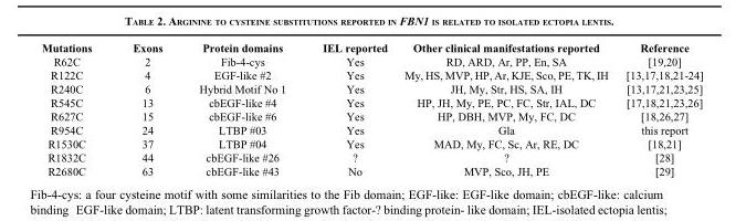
<table><tbody><tr><td>Mutations</td><td>Exons</td><td>Protein domains</td><td>IEL reported</td><td>Other clinical manifestations reported</td><td>Reference</td></tr><tr><td>R62C</td><td>2</td><td>Fib-4-cys</td><td>Yes</td><td>RD, ARD, Ar, PP, En, SA</td><td>[19,20]</td></tr><tr><td>R122C</td><td>4</td><td>EGF-like #2</td><td>Yes</td><td>My, HS, MVP, HP, Ar, KJE, Sco, PE, TK, IH</td><td>[13,17,18,21-24]</td></tr><tr><td>R240C</td><td>6</td><td>Hybrid Motif No 1</td><td>Yes</td><td>JH, My, Str, HS, SA, IH</td><td>[13,17,21,23,25]</td></tr><tr><td>R545C</td><td>13</td><td>cbEGF-like #4</td><td>Yes</td><td>HP, JH, My, PE, PC, FC, Str, IAL, DC</td><td>[17,18,21,23,26]</td></tr><tr><td>R627C</td><td>15</td><td>cbEGF-like #6</td><td>Yes</td><td>HP, DBH, MVP, My, FC, DC</td><td>[18,26,27]</td></tr><tr><td>R954C</td><td>24</td><td>LTBP #03</td><td>Yes</td><td>Gla</td><td>this report</td></tr><tr><td>R1530C</td><td>37</td><td>LTBP #04</td><td>Yes</td><td>MAD, My, FC, Sc, Ar, RE, DC</td><td>[18,21]</td></tr><tr><td>R1832C</td><td>44</td><td>cbEGF-like #26</td><td>?</td><td>?</td><td>[28]</td></tr><tr><td>R2680C</td><td>63</td><td>cbEGF-like #43</td><td>No</td><td>MVP, Sco, JH, PE</td><td>[29]</td></tr></tbody></table>